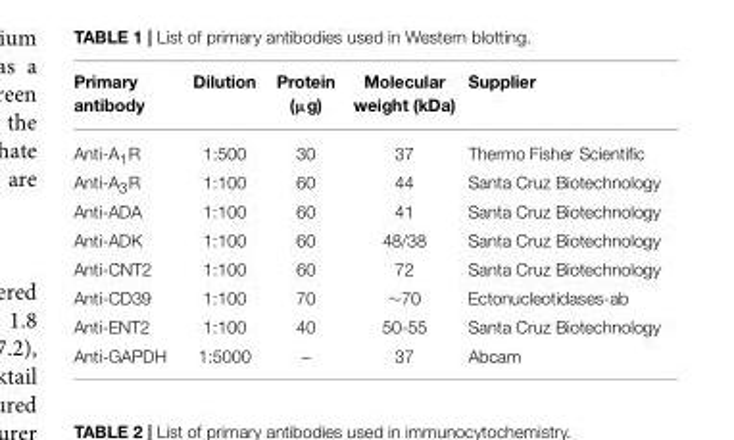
<table><thead><tr><td>Primary antibody</td><td>Dilution</td><td>Protein (µg)</td><td>Molecular weight (kDa)</td><td>Supplier</td></tr></thead><tbody><tr><td>Anti-A<sub>1</sub>R</td><td>1:500</td><td>30</td><td>37</td><td>Thermo Fisher Scientific</td></tr><tr><td>Anti-A<sub>3</sub>R</td><td>1:100</td><td>60</td><td>44</td><td>Santa Cruz Biotechnology</td></tr><tr><td>Anti-ADA</td><td>1:100</td><td>60</td><td>41</td><td>Santa Cruz Biotechnology</td></tr><tr><td>Anti-ADK</td><td>1:100</td><td>60</td><td>48/38</td><td>Santa Cruz Biotechnology</td></tr><tr><td>Anti-CNT2</td><td>1:100</td><td>60</td><td>72</td><td>Santa Cruz Biotechnology</td></tr><tr><td>Anti-CD39</td><td>1:100</td><td>70</td><td>∼70</td><td>Ectonucleotidases-ab</td></tr><tr><td>Anti-ENT2</td><td>1:100</td><td>40</td><td>50-55</td><td>Santa Cruz Biotechnology</td></tr><tr><td>Anti-GAPDH</td><td>1:5000</td><td>–</td><td>37</td><td>Abcam</td></tr></tbody></table>